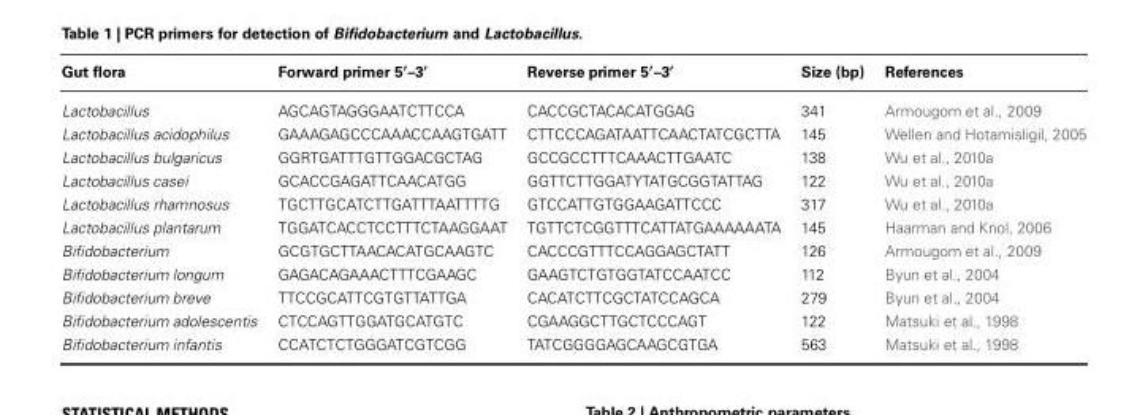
<table><thead><tr><td>Gut flora</td><td>Forward primer 5′–3′</td><td>Reverse primer 5′–3′</td><td>Size (bp)</td><td>References</td></tr></thead><tbody><tr><td>Lactobacillus</td><td>AGCAGTAGGGAATCTTCCA</td><td>CACCGCTACACATGGAG</td><td>341</td><td>Armougom et al., 2009</td></tr><tr><td>Lactobacillus acidophilus</td><td>GAAAGAGCCCAAACCAAGTGATT</td><td>CTTCCCAGATAATTCAACTATCGCTTA</td><td>145</td><td>Wellen and Hotamisligil, 2005</td></tr><tr><td>Lactobacillus bulgaricus</td><td>GGRTGATTTGTTGGACGCTAG</td><td>GCCGCCTTTCAAACTTGAATC</td><td>138</td><td>Wu et al., 2010a</td></tr><tr><td>Lactobacillus casei</td><td>GCACCGAGATTCAACATGG</td><td>GGTTCTTGGATYTATGCGGTATTAG</td><td>122</td><td>Wu et al., 2010a</td></tr><tr><td>Lactobacillus rhamnosus</td><td>TGCTTGCATCTTGATTTAATTTTG</td><td>GTCCATTGTGGAAGATTCCC</td><td>317</td><td>Wu et al., 2010a</td></tr><tr><td>Lactobacillus plantarum</td><td>TGGATCACCTCCTTTCTAAGGAAT</td><td>TGTTCTCGGTTTCATTATGAAAAAATA</td><td>145</td><td>Haarman and Knol, 2006</td></tr><tr><td>Bifidobacterium</td><td>GCGTGCTTAACACATGCAAGTC</td><td>CACCCGTTTCCAGGAGCTATT</td><td>126</td><td>Armougom et al., 2009</td></tr><tr><td>Bifidobacterium longum</td><td>GAGACAGAAACTTTCGAAGC</td><td>GAAGTCTGTGGTATCCAATCC</td><td>112</td><td>Byun et al., 2004</td></tr><tr><td>Bifidobacterium breve</td><td>TTCCGCATTCGTGTTATTGA</td><td>CACATCTTCGCTATCCAGCA</td><td>279</td><td>Byun et al., 2004</td></tr><tr><td>Bifidobacterium adolescentis</td><td>CTCCAGTTGGATGCATGTC</td><td>CGAAGGCTTGCTCCCAGT</td><td>122</td><td>Matsuki et al., 1998</td></tr><tr><td>Bifidobacterium infantis</td><td>CCATCTCTGGGATCGTCGG</td><td>TATCGGGGAGCAAGCGTGA</td><td>563</td><td>Matsuki et al., 1998</td></tr></tbody></table>